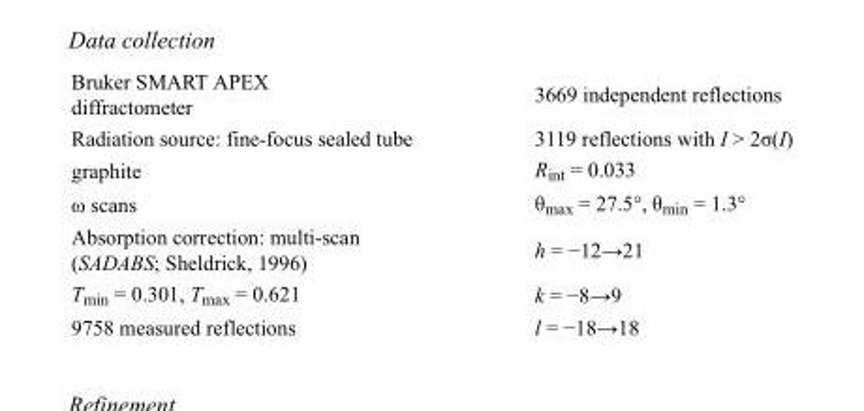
<table><tbody><tr><td>Bruker SMART APEX diffractometer</td><td>3669 independent reflections</td></tr><tr><td>Radiation source: fine-focus sealed tube</td><td>3119 reflections with I &gt; 2σ(I)</td></tr><tr><td>graphite</td><td>R<sub>int</sub> = 0.033</td></tr><tr><td>ω scans</td><td>θ<sub>max</sub> = 27.5°, θ<sub>min</sub> = 1.3°</td></tr><tr><td>Absorption correction: multi-scan (SADABS; Sheldrick, 1996)</td><td>h = −12→21</td></tr><tr><td>T<sub>min</sub> = 0.301, T<sub>max</sub> = 0.621</td><td>k = −8→9</td></tr><tr><td>9758 measured reflections</td><td>l = −18→18</td></tr></tbody></table>